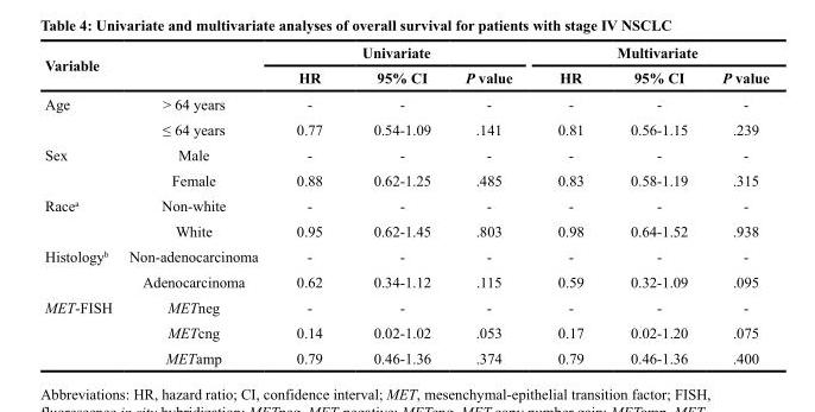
<table><thead><tr><td rowspan="2">Variable</td><td rowspan="2"></td><td colspan="3">Univariate</td><td colspan="3">Multivariate</td></tr><tr><td>HR</td><td>95% CI</td><td>P value</td><td>HR</td><td>95% CI</td><td>P value</td></tr></thead><tbody><tr><td rowspan="2">Age</td><td>&gt; 64 years</td><td>-</td><td>-</td><td>-</td><td>-</td><td>-</td><td>-</td></tr><tr><td>≤ 64 years</td><td>0.77</td><td>0.54-1.09</td><td>.141</td><td>0.81</td><td>0.56-1.15</td><td>.239</td></tr><tr><td rowspan="2">Sex</td><td>Male</td><td>-</td><td>-</td><td>-</td><td>-</td><td>-</td><td>-</td></tr><tr><td>Female</td><td>0.88</td><td>0.62-1.25</td><td>.485</td><td>0.83</td><td>0.58-1.19</td><td>.315</td></tr><tr><td rowspan="2">Race<sup>a</sup></td><td>Non-white</td><td>-</td><td>-</td><td>-</td><td>-</td><td>-</td><td>-</td></tr><tr><td>White</td><td>0.95</td><td>0.62-1.45</td><td>.803</td><td>0.98</td><td>0.64-1.52</td><td>.938</td></tr><tr><td rowspan="2">Histology<sup>b</sup></td><td>Non-adenocarcinoma</td><td>-</td><td>-</td><td>-</td><td>-</td><td>-</td><td>-</td></tr><tr><td>Adenocarcinoma</td><td>0.62</td><td>0.34-1.12</td><td>.115</td><td>0.59</td><td>0.32-1.09</td><td>.095</td></tr><tr><td rowspan="3">MET-FISH</td><td>METneg</td><td>-</td><td>-</td><td>-</td><td>-</td><td>-</td><td>-</td></tr><tr><td>METcng</td><td>0.14</td><td>0.02-1.02</td><td>.053</td><td>0.17</td><td>0.02-1.20</td><td>.075</td></tr><tr><td>METamp</td><td>0.79</td><td>0.46-1.36</td><td>.374</td><td>0.79</td><td>0.46-1.36</td><td>.400</td></tr></tbody></table>